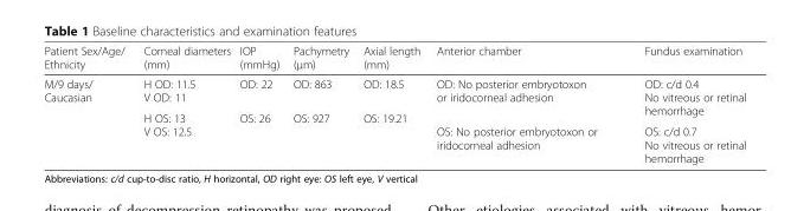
<table><thead><tr><td>Patient Sex/Age/ Ethnicity</td><td>Corneal diameters (mm)</td><td>IOP (mmHg)</td><td>Pachymetry (μm)</td><td>Axial length (mm)</td><td>Anterior chamber</td><td>Fundus examination</td></tr></thead><tbody><tr><td rowspan="3">M/9 days/ Caucasian</td><td>H OD: 11.5 V OD: 11</td><td>OD: 22</td><td>OD: 863</td><td>OD: 18.5</td><td rowspan="2">OD: No posterior embryotoxon or iridocorneal adhesion</td><td rowspan="2">OD: c/d 0.4 No vitreous or retinal hemorrhage</td></tr><tr><td rowspan="2">H OS: 13 V OS: 12.5</td><td rowspan="2">OS: 26</td><td rowspan="2">OS: 927</td><td rowspan="2">OS: 19.21</td></tr><tr><td>OS: No posterior embryotoxon or iridocorneal adhesion</td><td>OS: c/d 0.7 No vitreous or retinal hemorrhage</td></tr></tbody></table>